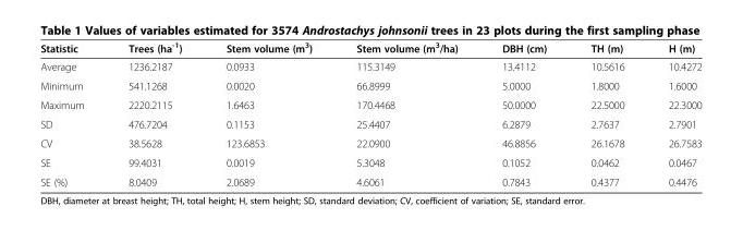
<table><thead><tr><td>Statistic</td><td>Trees (ha<sup>-1</sup>)</td><td>Stem volume (m<sup>3</sup>)</td><td>Stem volume (m<sup>3</sup>/ha)</td><td>DBH (cm)</td><td>TH (m)</td><td>H (m)</td></tr></thead><tbody><tr><td>Average</td><td>1236.2187</td><td>0.0933</td><td>115.3149</td><td>13.4112</td><td>10.5616</td><td>10.4272</td></tr><tr><td>Minimum</td><td>541.1268</td><td>0.0020</td><td>66.8999</td><td>5.0000</td><td>1.8000</td><td>1.6000</td></tr><tr><td>Maximum</td><td>2220.2115</td><td>1.6463</td><td>170.4468</td><td>50.0000</td><td>22.5000</td><td>22.3000</td></tr><tr><td>SD</td><td>476.7204</td><td>0.1153</td><td>25.4407</td><td>6.2879</td><td>2.7637</td><td>2.7901</td></tr><tr><td>CV</td><td>38.5628</td><td>123.6853</td><td>22.0900</td><td>46.8856</td><td>26.1678</td><td>26.7583</td></tr><tr><td>SE</td><td>99.4031</td><td>0.0019</td><td>5.3048</td><td>0.1052</td><td>0.0462</td><td>0.0467</td></tr><tr><td>SE (%)</td><td>8.0409</td><td>2.0689</td><td>4.6061</td><td>0.7843</td><td>0.4377</td><td>0.4476</td></tr></tbody></table>